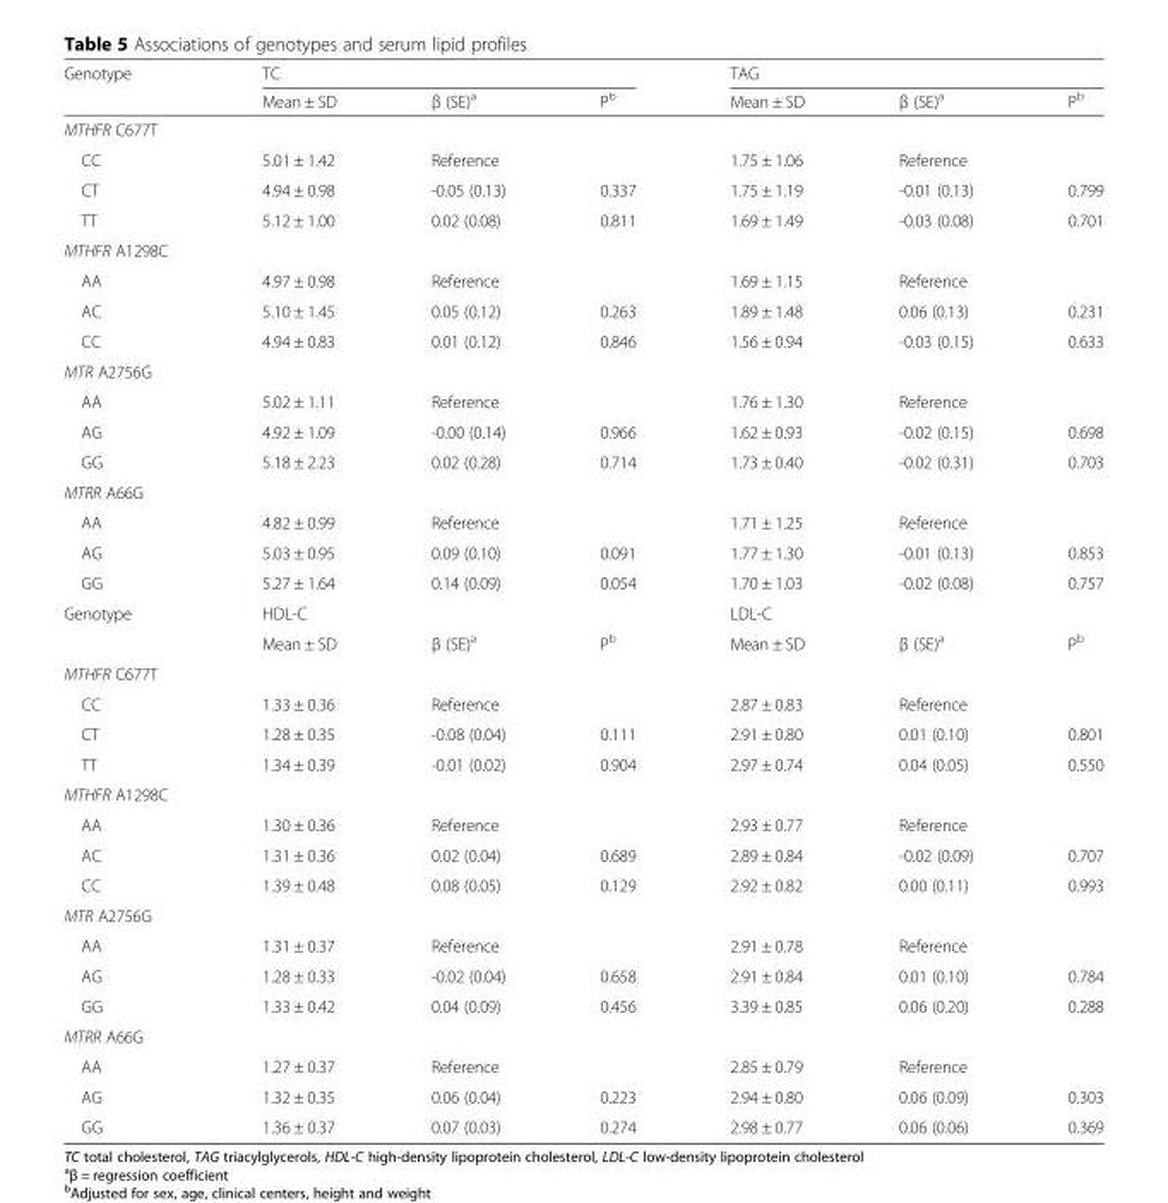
<table><thead><tr><td rowspan="2">Genotype</td><td colspan="3">TC</td><td colspan="3">TAG</td></tr><tr><td>Mean ± SD</td><td>β (SE)<sup>a</sup></td><td>P<sup>b</sup></td><td>Mean ± SD</td><td>β (SE)<sup>a</sup></td><td>P<sup>b</sup></td></tr></thead><tbody><tr><td colspan="7">MTHFR C677T</td></tr><tr><td>CC</td><td>5.01 ± 1.42</td><td>Reference</td><td></td><td>1.75 ± 1.06</td><td>Reference</td><td></td></tr><tr><td>CT</td><td>4.94 ± 0.98</td><td>-0.05 (0.13)</td><td>0.337</td><td>1.75 ± 1.19</td><td>-0.01 (0.13)</td><td>0.799</td></tr><tr><td>TT</td><td>5.12 ± 1.00</td><td>0.02 (0.08)</td><td>0.811</td><td>1.69 ± 1.49</td><td>-0.03 (0.08)</td><td>0.701</td></tr><tr><td colspan="7">MTHFR A1298C</td></tr><tr><td>AA</td><td>4.97 ± 0.98</td><td>Reference</td><td></td><td>1.69 ± 1.15</td><td>Reference</td><td></td></tr><tr><td>AC</td><td>5.10 ± 1.45</td><td>0.05 (0.12)</td><td>0.263</td><td>1.89 ± 1.48</td><td>0.06 (0.13)</td><td>0.231</td></tr><tr><td>CC</td><td>4.94 ± 0.83</td><td>0.01 (0.12)</td><td>0.846</td><td>1.56 ± 0.94</td><td>-0.03 (0.15)</td><td>0.633</td></tr><tr><td colspan="7">MTR A2756G</td></tr><tr><td>AA</td><td>5.02 ± 1.11</td><td>Reference</td><td></td><td>1.76 ± 1.30</td><td>Reference</td><td></td></tr><tr><td>AG</td><td>4.92 ± 1.09</td><td>-0.00 (0.14)</td><td>0.966</td><td>1.62 ± 0.93</td><td>-0.02 (0.15)</td><td>0.698</td></tr><tr><td>GG</td><td>5.18 ± 2.23</td><td>0.02 (0.28)</td><td>0.714</td><td>1.73 ± 0.40</td><td>-0.02 (0.31)</td><td>0.703</td></tr><tr><td colspan="7">MTRR A66G</td></tr><tr><td>AA</td><td>4.82 ± 0.99</td><td>Reference</td><td></td><td>1.71 ± 1.25</td><td>Reference</td><td></td></tr><tr><td>AG</td><td>5.03 ± 0.95</td><td>0.09 (0.10)</td><td>0.091</td><td>1.77 ± 1.30</td><td>-0.01 (0.13)</td><td>0.853</td></tr><tr><td>GG</td><td>5.27 ± 1.64</td><td>0.14 (0.09)</td><td>0.054</td><td>1.70 ± 1.03</td><td>-0.02 (0.08)</td><td>0.757</td></tr><tr><td rowspan="2">Genotype</td><td colspan="3">HDL-C</td><td colspan="3">LDL-C</td></tr><tr><td>Mean ± SD</td><td>β (SE)<sup>a</sup></td><td>P<sup>b</sup></td><td>Mean ± SD</td><td>β (SE)<sup>a</sup></td><td>P<sup>b</sup></td></tr><tr><td colspan="7">MTHFR C677T</td></tr><tr><td>CC</td><td>1.33 ± 0.36</td><td>Reference</td><td></td><td>2.87 ± 0.83</td><td>Reference</td><td></td></tr><tr><td>CT</td><td>1.28 ± 0.35</td><td>-0.08 (0.04)</td><td>0.111</td><td>2.91 ± 0.80</td><td>0.01 (0.10)</td><td>0.801</td></tr><tr><td>TT</td><td>1.34 ± 0.39</td><td>-0.01 (0.02)</td><td>0.904</td><td>2.97 ± 0.74</td><td>0.04 (0.05)</td><td>0.550</td></tr><tr><td colspan="7">MTHFR A1298C</td></tr><tr><td>AA</td><td>1.30 ± 0.36</td><td>Reference</td><td></td><td>2.93 ± 0.77</td><td>Reference</td><td></td></tr><tr><td>AC</td><td>1.31 ± 0.36</td><td>0.02 (0.04)</td><td>0.689</td><td>2.89 ± 0.84</td><td>-0.02 (0.09)</td><td>0.707</td></tr><tr><td>CC</td><td>1.39 ± 0.48</td><td>0.08 (0.05)</td><td>0.129</td><td>2.92 ± 0.82</td><td>0.00 (0.11)</td><td>0.993</td></tr><tr><td colspan="7">MTR A2756G</td></tr><tr><td>AA</td><td>1.31 ± 0.37</td><td>Reference</td><td></td><td>2.91 ± 0.78</td><td>Reference</td><td></td></tr><tr><td>AG</td><td>1.28 ± 0.33</td><td>-0.02 (0.04)</td><td>0.658</td><td>2.91 ± 0.84</td><td>0.01 (0.10)</td><td>0.784</td></tr><tr><td>GG</td><td>1.33 ± 0.42</td><td>0.04 (0.09)</td><td>0.456</td><td>3.39 ± 0.85</td><td>0.06 (0.20)</td><td>0.288</td></tr><tr><td colspan="7">MTRR A66G</td></tr><tr><td>AA</td><td>1.27 ± 0.37</td><td>Reference</td><td></td><td>2.85 ± 0.79</td><td>Reference</td><td></td></tr><tr><td>AG</td><td>1.32 ± 0.35</td><td>0.06 (0.04)</td><td>0.223</td><td>2.94 ± 0.80</td><td>0.06 (0.09)</td><td>0.303</td></tr><tr><td>GG</td><td>1.36 ± 0.37</td><td>0.07 (0.03)</td><td>0.274</td><td>2.98 ± 0.77</td><td>0.06 (0.06)</td><td>0.369</td></tr></tbody></table>